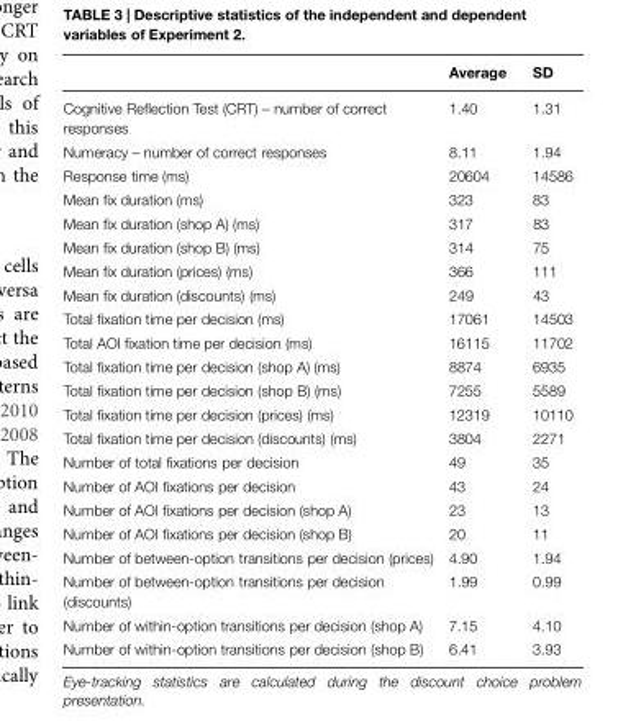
<table><thead><tr><td></td><td>Average</td><td>SD</td></tr></thead><tbody><tr><td>Cognitive Reflection Test (CRT) – number of correct responses</td><td>1.40</td><td>1.31</td></tr><tr><td>Numeracy – number of correct responses</td><td>8.11</td><td>1.94</td></tr><tr><td>Response time (ms)</td><td>20604</td><td>14586</td></tr><tr><td>Mean fix duration (ms)</td><td>323</td><td>83</td></tr><tr><td>Mean fix duration (shop A) (ms)</td><td>317</td><td>83</td></tr><tr><td>Mean fix duration (shop B) (ms)</td><td>314</td><td>75</td></tr><tr><td>Mean fix duration (prices) (ms)</td><td>366</td><td>111</td></tr><tr><td>Mean fix duration (discounts) (ms)</td><td>249</td><td>43</td></tr><tr><td>Total fixation time per decision (ms)</td><td>17061</td><td>14503</td></tr><tr><td>Total AOI fixation time per decision (ms)</td><td>16115</td><td>11702</td></tr><tr><td>Total fixation time per decision (shop A) (ms)</td><td>8874</td><td>6935</td></tr><tr><td>Total fixation time per decision (shop B) (ms)</td><td>7255</td><td>5589</td></tr><tr><td>Total fixation time per decision (prices) (ms)</td><td>12319</td><td>10110</td></tr><tr><td>Total fixation time per decision (discounts) (ms)</td><td>3804</td><td>2271</td></tr><tr><td>Number of total fixations per decision</td><td>49</td><td>35</td></tr><tr><td>Number of AOI fixations per decision</td><td>43</td><td>24</td></tr><tr><td>Number of AOI fixations per decision (shop A)</td><td>23</td><td>13</td></tr><tr><td>Number of AOI fixations per decision (shop B)</td><td>20</td><td>11</td></tr><tr><td>Number of between-option transitions per decision (prices)</td><td>4.90</td><td>1.94</td></tr><tr><td>Number of between-option transitions per decision (discounts)</td><td>1.99</td><td>0.99</td></tr><tr><td>Number of within-option transitions per decision (shop A)</td><td>7.15</td><td>4.10</td></tr><tr><td>Number of within-option transitions per decision (shop B)</td><td>6.41</td><td>3.93</td></tr></tbody></table>